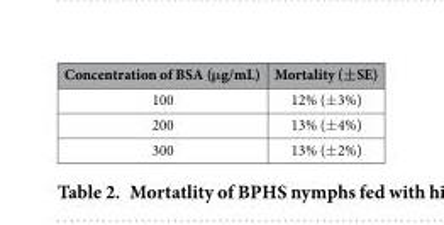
<table><thead><tr><td>Concentration of BSA (μg/mL)</td><td>Mortality (±SE)</td></tr></thead><tbody><tr><td>100</td><td>12% (± 3%)</td></tr><tr><td>200</td><td>13% (± 4%)</td></tr><tr><td>300</td><td>13% (± 2%)</td></tr></tbody></table>